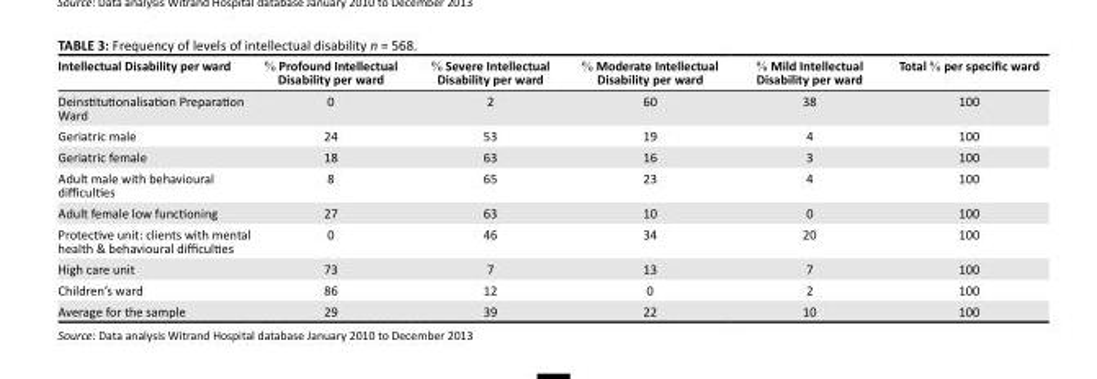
<table><thead><tr><td>Intellectual Disability per ward</td><td>% Profound Intellectual Disability per ward</td><td>% Severe Intellectual Disability per ward</td><td>% Moderate Intellectual Disability per ward</td><td>% Mild Intellectual Disability per ward</td><td>Total % per specific ward</td></tr></thead><tbody><tr><td>Deinstitutionalisation Preparation Ward</td><td>0</td><td>2</td><td>60</td><td>38</td><td>100</td></tr><tr><td>Geriatric male</td><td>24</td><td>53</td><td>19</td><td>4</td><td>100</td></tr><tr><td>Geriatric female</td><td>18</td><td>63</td><td>16</td><td>3</td><td>100</td></tr><tr><td>Adult male with behavioural difficulties</td><td>8</td><td>65</td><td>23</td><td>4</td><td>100</td></tr><tr><td>Adult female low functioning</td><td>27</td><td>63</td><td>10</td><td>0</td><td>100</td></tr><tr><td>Protective unit: clients with mental health &amp; behavioural difficulties</td><td>0</td><td>46</td><td>34</td><td>20</td><td>100</td></tr><tr><td>High care unit</td><td>73</td><td>7</td><td>13</td><td>7</td><td>100</td></tr><tr><td>Children’s ward</td><td>86</td><td>12</td><td>0</td><td>2</td><td>100</td></tr><tr><td>Average for the sample</td><td>29</td><td>39</td><td>22</td><td>10</td><td>100</td></tr></tbody></table>